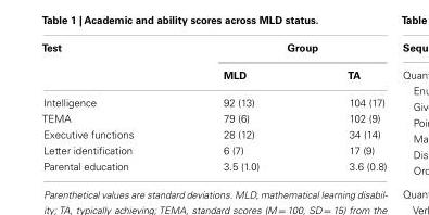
<table><thead><tr><td rowspan="2">Test</td><td colspan="2">Group</td></tr><tr><td>MLD</td><td>TA</td></tr></thead><tbody><tr><td>Intelligence</td><td>92 (13)</td><td>104 (17)</td></tr><tr><td>TEMA</td><td>79 (6)</td><td>102 (9)</td></tr><tr><td>Executive functions</td><td>28 (12)</td><td>34 (14)</td></tr><tr><td>Letter identification</td><td>6 (7)</td><td>17 (9)</td></tr><tr><td>Parental education</td><td>3.5 (1.0)</td><td>3.6 (0.8)</td></tr></tbody></table>